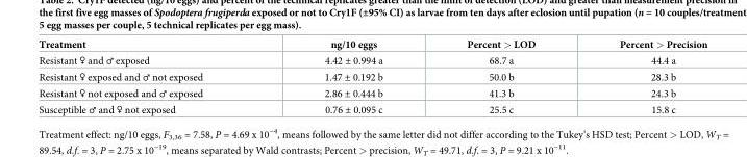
<table><thead><tr><td>Treatment</td><td>ng/10 eggs</td><td>Percent &gt; LOD</td><td>Percent &gt; Precision</td></tr></thead><tbody><tr><td>Resistant ♀ and ♂ exposed</td><td>4.42 ± 0.994 a</td><td>68.7 a</td><td>44.4 a</td></tr><tr><td>Resistant ♀ exposed and ♂ not exposed</td><td>1.47 ± 0.192 b</td><td>50.0 b</td><td>28.3 b</td></tr><tr><td>Resistant ♀ not exposed and ♂ exposed</td><td>2.86 ± 0.444 b</td><td>41.3 b</td><td>24.3 b</td></tr><tr><td>Susceptible ♂ and ♀ not exposed</td><td>0.76 ± 0.095 c</td><td>25.5 c</td><td>15.8 c</td></tr></tbody></table>